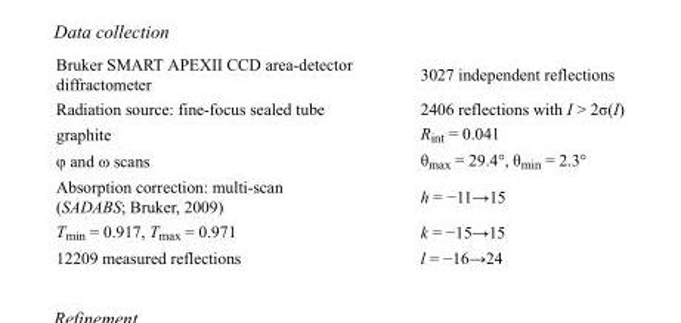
<table><tbody><tr><td>Bruker SMART APEXII CCD area-detector diffractometer</td><td>3027 independent reflections</td></tr><tr><td>Radiation source: fine-focus sealed tube</td><td>2406 reflections with I &gt; 2σ(I)</td></tr><tr><td>graphite</td><td>R<sub>int</sub> = 0.041</td></tr><tr><td>φ and ω scans</td><td>θ<sub>max</sub> = 29.4°, θ<sub>min</sub> = 2.3°</td></tr><tr><td>Absorption correction: multi-scan (SADABS; Bruker, 2009)</td><td>h = −11→15</td></tr><tr><td>T<sub>min</sub> = 0.917, T<sub>max</sub> = 0.971</td><td>k = −15→15</td></tr><tr><td>12209 measured reflections</td><td>l = −16→24</td></tr></tbody></table>